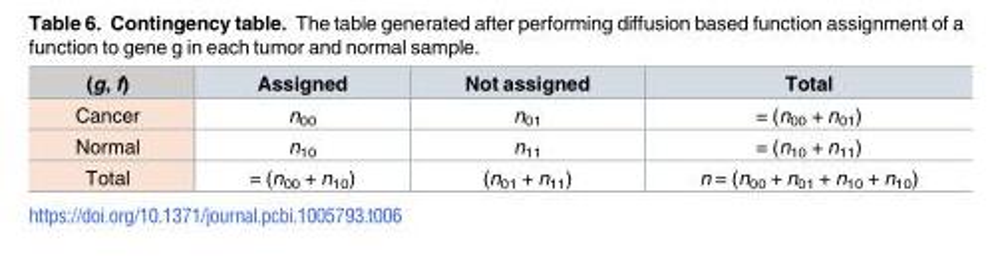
<table><thead><tr><td>(g, f)</td><td>Assigned</td><td>Not assigned</td><td>Total</td></tr></thead><tbody><tr><td>Cancer</td><td>n<sub>00</sub></td><td>n<sub>01</sub></td><td>= (n<sub>00</sub> + n<sub>01</sub>)</td></tr><tr><td>Normal</td><td>n<sub>10</sub></td><td>n<sub>11</sub></td><td>= (n<sub>10</sub> + n<sub>11</sub>)</td></tr><tr><td>Total</td><td>= (n<sub>00</sub> + n<sub>10</sub>)</td><td>(n<sub>01</sub> + n<sub>11</sub>)</td><td>n = (n<sub>00</sub> + n<sub>01</sub> + n<sub>10</sub> + n<sub>10</sub>)</td></tr></tbody></table>